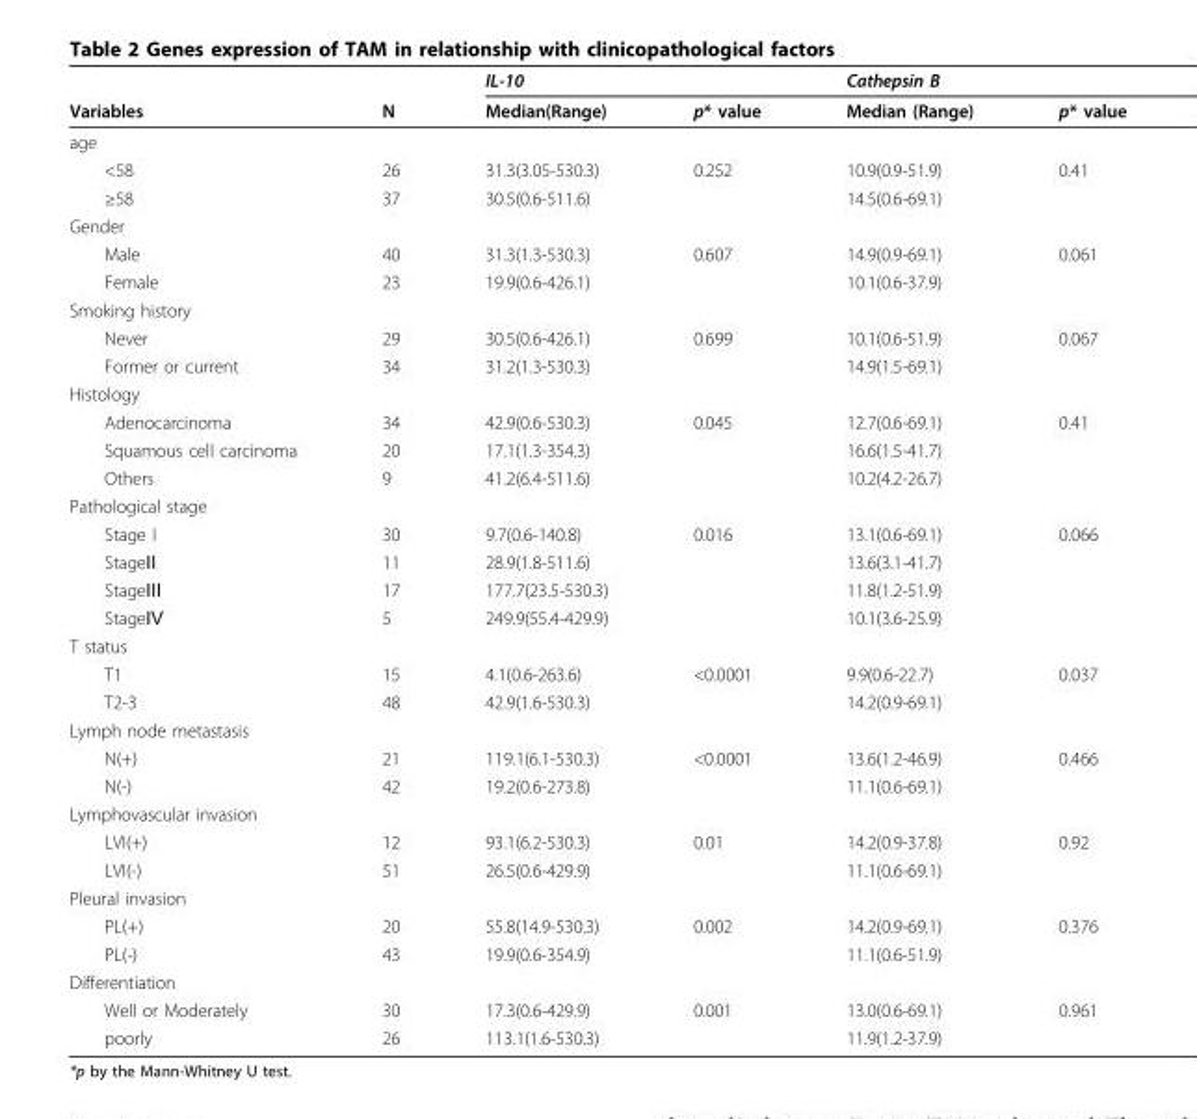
<table><thead><tr><td rowspan="2">Variables</td><td rowspan="2">N</td><td colspan="2">IL-10</td><td colspan="2">Cathepsin B</td></tr><tr><td>Median(Range)</td><td>p* value</td><td>Median (Range)</td><td>p* value</td></tr></thead><tbody><tr><td colspan="6">age</td></tr><tr><td>&lt;58</td><td>26</td><td>31.3(3.05-530.3)</td><td>0.252</td><td>10.9(0.9-51.9)</td><td>0.41</td></tr><tr><td>≥58</td><td>37</td><td>30.5(0.6-511.6)</td><td></td><td>14.5(0.6-69.1)</td><td></td></tr><tr><td colspan="6">Gender</td></tr><tr><td>Male</td><td>40</td><td>31.3(1.3-530.3)</td><td>0.607</td><td>14.9(0.9-69.1)</td><td>0.061</td></tr><tr><td>Female</td><td>23</td><td>19.9(0.6-426.1)</td><td></td><td>10.1(0.6-37.9)</td><td></td></tr><tr><td colspan="6">Smoking history</td></tr><tr><td>Never</td><td>29</td><td>30.5(0.6-426.1)</td><td>0.699</td><td>10.1(0.6-51.9)</td><td>0.067</td></tr><tr><td>Former or current</td><td>34</td><td>31.2(1.3-530.3)</td><td></td><td>14.9(1.5-69.1)</td><td></td></tr><tr><td colspan="6">Histology</td></tr><tr><td>Adenocarcinoma</td><td>34</td><td>42.9(0.6-530.3)</td><td>0.045</td><td>12.7(0.6-69.1)</td><td>0.41</td></tr><tr><td>Squamous cell carcinoma</td><td>20</td><td>17.1(1.3-354.3)</td><td></td><td>16.6(1.5-41.7)</td><td></td></tr><tr><td>Others</td><td>9</td><td>41.2(6.4-511.6)</td><td></td><td>10.2(4.2-26.7)</td><td></td></tr><tr><td colspan="6">Pathological stage</td></tr><tr><td>Stage I</td><td>30</td><td>9.7(0.6-140.8)</td><td>0.016</td><td>13.1(0.6-69.1)</td><td>0.066</td></tr><tr><td>StageⅡ</td><td>11</td><td>28.9(1.8-511.6)</td><td></td><td>13.6(3.1-41.7)</td><td></td></tr><tr><td>StageⅢ</td><td>17</td><td>177.7(23.5-530.3)</td><td></td><td>11.8(1.2-51.9)</td><td></td></tr><tr><td>StageⅣ</td><td>5</td><td>249.9(55.4-429.9)</td><td></td><td>10.1(3.6-25.9)</td><td></td></tr><tr><td colspan="6">T status</td></tr><tr><td>T1</td><td>15</td><td>4.1(0.6-263.6)</td><td>&lt;0.0001</td><td>9.9(0.6-22.7)</td><td>0.037</td></tr><tr><td>T2-3</td><td>48</td><td>42.9(1.6-530.3)</td><td></td><td>14.2(0.9-69.1)</td><td></td></tr><tr><td colspan="6">Lymph node metastasis</td></tr><tr><td>N(+)</td><td>21</td><td>119.1(6.1-530.3)</td><td>&lt;0.0001</td><td>13.6(1.2-46.9)</td><td>0.466</td></tr><tr><td>N(-)</td><td>42</td><td>19.2(0.6-273.8)</td><td></td><td>11.1(0.6-69.1)</td><td></td></tr><tr><td colspan="6">Lymphovascular invasion</td></tr><tr><td>LVI(+)</td><td>12</td><td>93.1(6.2-530.3)</td><td>0.01</td><td>14.2(0.9-37.8)</td><td>0.92</td></tr><tr><td>LVI(-)</td><td>51</td><td>26.5(0.6-429.9)</td><td></td><td>11.1(0.6-69.1)</td><td></td></tr><tr><td colspan="6">Pleural invasion</td></tr><tr><td>PL(+)</td><td>20</td><td>55.8(14.9-530.3)</td><td>0.002</td><td>14.2(0.9-69.1)</td><td>0.376</td></tr><tr><td>PL(-)</td><td>43</td><td>19.9(0.6-354.9)</td><td></td><td>11.1(0.6-51.9)</td><td></td></tr><tr><td colspan="6">Differentiation</td></tr><tr><td>Well or Moderately</td><td>30</td><td>17.3(0.6-429.9)</td><td>0.001</td><td>13.0(0.6-69.1)</td><td>0.961</td></tr><tr><td>poorly</td><td>26</td><td>113.1(1.6-530.3)</td><td></td><td>11.9(1.2-37.9)</td><td></td></tr></tbody></table>